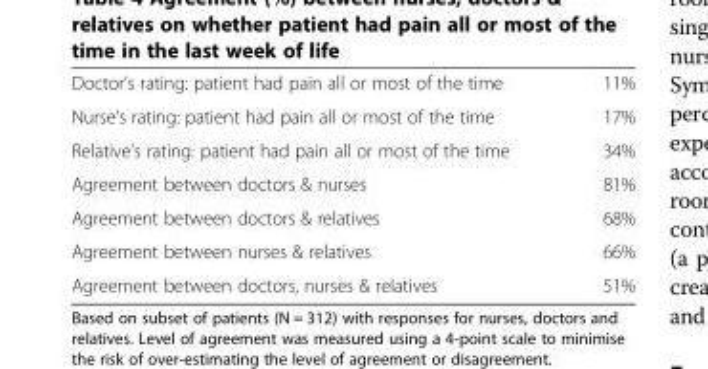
<table><tbody><tr><td>Doctor’s rating: patient had pain all or most of the time</td><td>11%</td></tr><tr><td>Nurse’s rating: patient had pain all or most of the time</td><td>17%</td></tr><tr><td>Relative’s rating: patient had pain all or most of the time</td><td>34%</td></tr><tr><td>Agreement between doctors &amp; nurses</td><td>81%</td></tr><tr><td>Agreement between doctors &amp; relatives</td><td>68%</td></tr><tr><td>Agreement between nurses &amp; relatives</td><td>66%</td></tr><tr><td>Agreement between doctors, nurses &amp; relatives</td><td>51%</td></tr></tbody></table>